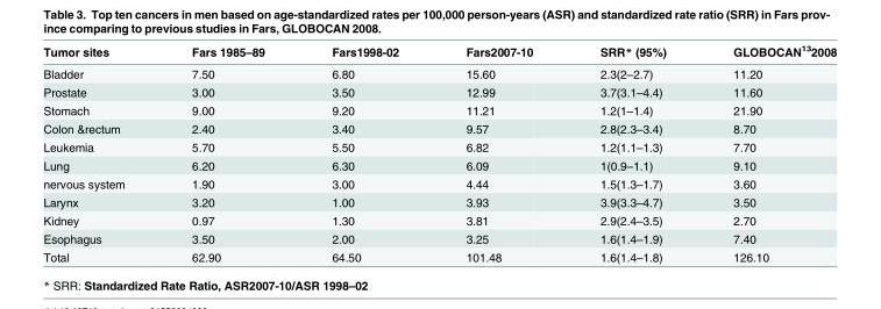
<table><thead><tr><td>Tumor sites</td><td>Fars 1985–89</td><td>Fars1998-02</td><td>Fars2007-10</td><td>SRR* (95%)</td><td>GLOBOCAN<sup>13</sup>2008</td></tr></thead><tbody><tr><td>Bladder</td><td>7.50</td><td>6.80</td><td>15.60</td><td>2.3(2–2.7)</td><td>11.20</td></tr><tr><td>Prostate</td><td>3.00</td><td>3.50</td><td>12.99</td><td>3.7(3.1–4.4)</td><td>11.60</td></tr><tr><td>Stomach</td><td>9.00</td><td>9.20</td><td>11.21</td><td>1.2(1–1.4)</td><td>21.90</td></tr><tr><td>Colon &amp;rectum</td><td>2.40</td><td>3.40</td><td>9.57</td><td>2.8(2.3–3.4)</td><td>8.70</td></tr><tr><td>Leukemia</td><td>5.70</td><td>5.50</td><td>6.82</td><td>1.2(1.1–1.3)</td><td>7.70</td></tr><tr><td>Lung</td><td>6.20</td><td>6.30</td><td>6.09</td><td>1(0.9–1.1)</td><td>9.10</td></tr><tr><td>nervous system</td><td>1.90</td><td>3.00</td><td>4.44</td><td>1.5(1.3–1.7)</td><td>3.60</td></tr><tr><td>Larynx</td><td>3.20</td><td>1.00</td><td>3.93</td><td>3.9(3.3–4.7)</td><td>3.50</td></tr><tr><td>Kidney</td><td>0.97</td><td>1.30</td><td>3.81</td><td>2.9(2.4–3.5)</td><td>2.70</td></tr><tr><td>Esophagus</td><td>3.50</td><td>2.00</td><td>3.25</td><td>1.6(1.4–1.9)</td><td>7.40</td></tr><tr><td>Total</td><td>62.90</td><td>64.50</td><td>101.48</td><td>1.6(1.4–1.8)</td><td>126.10</td></tr></tbody></table>